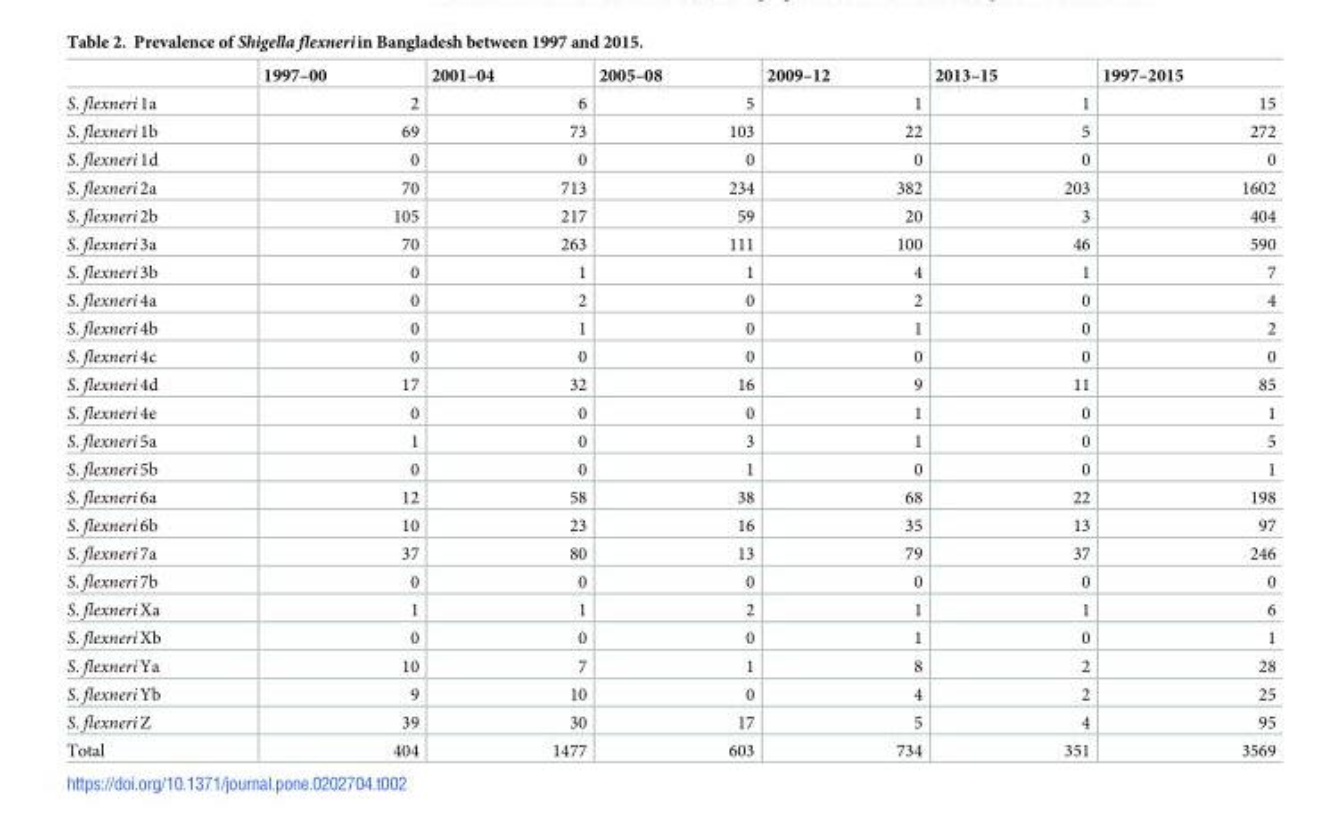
<table><thead><tr><td></td><td>1997–00</td><td>2001–04</td><td>2005–08</td><td>2009–12</td><td>2013–15</td><td>1997–2015</td></tr></thead><tbody><tr><td>S. flexneri 1a</td><td>2</td><td>6</td><td>5</td><td>1</td><td>1</td><td>15</td></tr><tr><td>S. flexneri 1b</td><td>69</td><td>73</td><td>103</td><td>22</td><td>5</td><td>272</td></tr><tr><td>S. flexneri 1d</td><td>0</td><td>0</td><td>0</td><td>0</td><td>0</td><td>0</td></tr><tr><td>S. flexneri 2a</td><td>70</td><td>713</td><td>234</td><td>382</td><td>203</td><td>1602</td></tr><tr><td>S. flexneri 2b</td><td>105</td><td>217</td><td>59</td><td>20</td><td>3</td><td>404</td></tr><tr><td>S. flexneri 3a</td><td>70</td><td>263</td><td>111</td><td>100</td><td>46</td><td>590</td></tr><tr><td>S. flexneri 3b</td><td>0</td><td>1</td><td>1</td><td>4</td><td>1</td><td>7</td></tr><tr><td>S. flexneri 4a</td><td>0</td><td>2</td><td>0</td><td>2</td><td>0</td><td>4</td></tr><tr><td>S. flexneri 4b</td><td>0</td><td>1</td><td>0</td><td>1</td><td>0</td><td>2</td></tr><tr><td>S. flexneri 4c</td><td>0</td><td>0</td><td>0</td><td>0</td><td>0</td><td>0</td></tr><tr><td>S. flexneri 4d</td><td>17</td><td>32</td><td>16</td><td>9</td><td>11</td><td>85</td></tr><tr><td>S. flexneri 4e</td><td>0</td><td>0</td><td>0</td><td>1</td><td>0</td><td>1</td></tr><tr><td>S. flexneri 5a</td><td>1</td><td>0</td><td>3</td><td>1</td><td>0</td><td>5</td></tr><tr><td>S. flexneri 5b</td><td>0</td><td>0</td><td>1</td><td>0</td><td>0</td><td>1</td></tr><tr><td>S. flexneri 6a</td><td>12</td><td>58</td><td>38</td><td>68</td><td>22</td><td>198</td></tr><tr><td>S. flexneri 6b</td><td>10</td><td>23</td><td>16</td><td>35</td><td>13</td><td>97</td></tr><tr><td>S. flexneri 7a</td><td>37</td><td>80</td><td>13</td><td>79</td><td>37</td><td>246</td></tr><tr><td>S. flexneri 7b</td><td>0</td><td>0</td><td>0</td><td>0</td><td>0</td><td>0</td></tr><tr><td>S. flexneri Xa</td><td>1</td><td>1</td><td>2</td><td>1</td><td>1</td><td>6</td></tr><tr><td>S. flexneri Xb</td><td>0</td><td>0</td><td>0</td><td>1</td><td>0</td><td>1</td></tr><tr><td>S. flexneri Ya</td><td>10</td><td>7</td><td>1</td><td>8</td><td>2</td><td>28</td></tr><tr><td>S. flexneri Yb</td><td>9</td><td>10</td><td>0</td><td>4</td><td>2</td><td>25</td></tr><tr><td>S. flexneri Z</td><td>39</td><td>30</td><td>17</td><td>5</td><td>4</td><td>95</td></tr><tr><td>Total</td><td>404</td><td>1477</td><td>603</td><td>734</td><td>351</td><td>3569</td></tr></tbody></table>